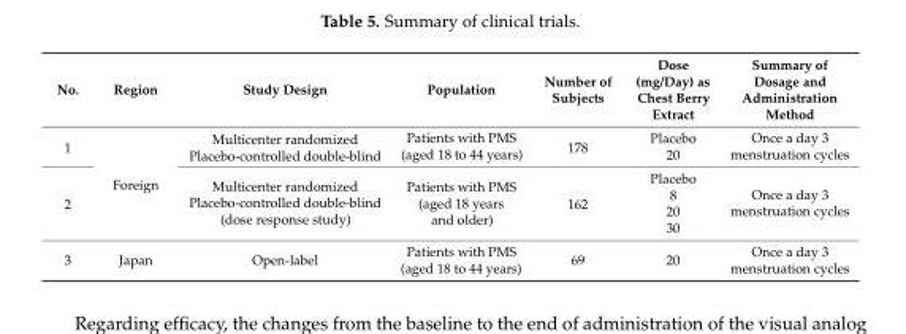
<table><thead><tr><td>No.</td><td>Region</td><td>Study Design</td><td>Population</td><td>Number of Subjects</td><td>Dose (mg/Day) as Chest Berry Extract</td><td>Summary of Dosage and Administration Method</td></tr></thead><tbody><tr><td rowspan="2">1</td><td rowspan="6">Foreign</td><td rowspan="2">Multicenter randomized Placebo-controlled double-blind</td><td rowspan="2">Patients with PMS (aged 18 to 44 years)</td><td rowspan="2">178</td><td>Placebo</td><td rowspan="2">Once a day 3 menstruation cycles</td></tr><tr><td>20</td></tr><tr><td rowspan="4">2</td><td rowspan="4">Multicenter randomized Placebo-controlled double-blind (dose response study)</td><td rowspan="4">Patients with PMS (aged 18 years and older)</td><td rowspan="4">162</td><td>Placebo</td><td rowspan="4">Once a day 3 menstruation cycles</td></tr><tr><td>8</td></tr><tr><td>20</td></tr><tr><td>30</td></tr><tr><td>3</td><td>Japan</td><td>Open-label</td><td>Patients with PMS (aged 18 to 44 years)</td><td>69</td><td>20</td><td>Once a day 3 menstruation cycles</td></tr></tbody></table>